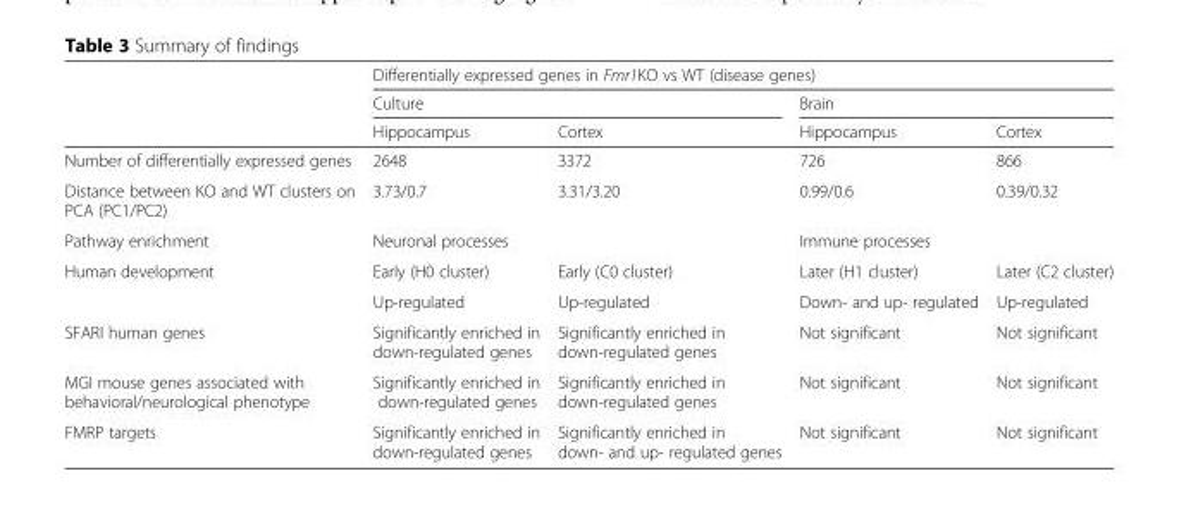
<table><thead><tr><td rowspan="3"></td><td colspan="4">Differentially expressed genes in Fmr1KO vs WT (disease genes)</td></tr><tr><td colspan="2">Culture</td><td colspan="2">Brain</td></tr><tr><td>Hippocampus</td><td>Cortex</td><td>Hippocampus</td><td>Cortex</td></tr></thead><tbody><tr><td>Number of differentially expressed genes</td><td>2648</td><td>3372</td><td>726</td><td>866</td></tr><tr><td>Distance between KO and WT clusters on PCA (PC1/PC2)</td><td>3.73/0.7</td><td>3.31/3.20</td><td>0.99/0.6</td><td>0.39/0.32</td></tr><tr><td>Pathway enrichment</td><td colspan="2">Neuronal processes</td><td colspan="2">Immune processes</td></tr><tr><td rowspan="2">Human development</td><td>Early (H0 cluster)</td><td>Early (C0 cluster)</td><td>Later (H1 cluster)</td><td>Later (C2 cluster)</td></tr><tr><td>Up-regulated</td><td>Up-regulated</td><td>Down- and up- regulated</td><td>Up-regulated</td></tr><tr><td>SFARI human genes</td><td>Significantly enriched in down-regulated genes</td><td>Significantly enriched in down-regulated genes</td><td>Not significant</td><td>Not significant</td></tr><tr><td>MGI mouse genes associated with behavioral/neurological phenotype</td><td>Significantly enriched in down-regulated genes</td><td>Significantly enriched in down-regulated genes</td><td>Not significant</td><td>Not significant</td></tr><tr><td>FMRP targets</td><td>Significantly enriched in down-regulated genes</td><td>Significantly enriched in down- and up- regulated genes</td><td>Not significant</td><td>Not significant</td></tr></tbody></table>